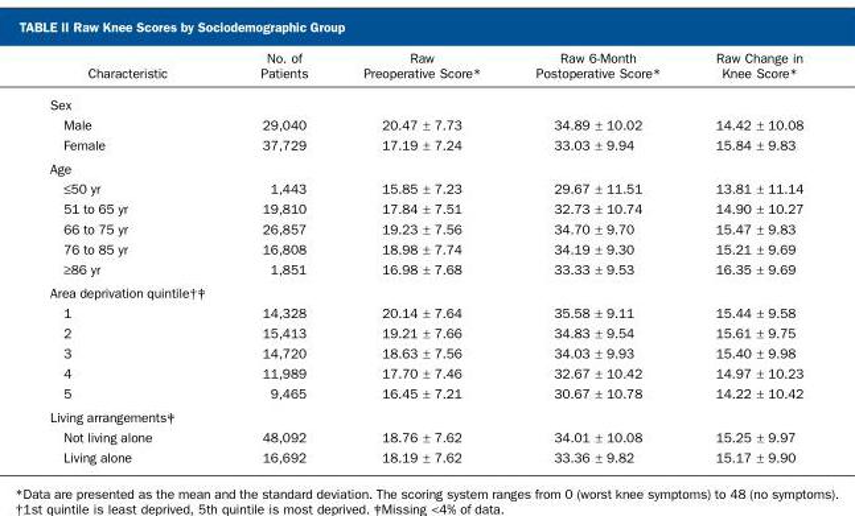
<table><thead><tr><td>Characteristic</td><td>No. of Patients</td><td>Raw Preoperative Score*</td><td>Raw 6-Month Postoperative Score*</td><td>Raw Change in Knee Score*</td></tr></thead><tbody><tr><td colspan="5">Sex</td></tr><tr><td>Male</td><td>29,040</td><td>20.47 ± 7.73</td><td>34.89 ± 10.02</td><td>14.42 ± 10.08</td></tr><tr><td>Female</td><td>37,729</td><td>17.19 ± 7.24</td><td>33.03 ± 9.94</td><td>15.84 ± 9.83</td></tr><tr><td colspan="5">Age</td></tr><tr><td>≤50 yr</td><td>1,443</td><td>15.85 ± 7.23</td><td>29.67 ± 11.51</td><td>13.81 ± 11.14</td></tr><tr><td>51 to 65 yr</td><td>19,810</td><td>17.84 ± 7.51</td><td>32.73 ± 10.74</td><td>14.90 ± 10.27</td></tr><tr><td>66 to 75 yr</td><td>26,857</td><td>19.23 ± 7.56</td><td>34.70 ± 9.70</td><td>15.47 ± 9.83</td></tr><tr><td>76 to 85 yr</td><td>16,808</td><td>18.98 ± 7.74</td><td>34.19 ± 9.30</td><td>15.21 ± 9.69</td></tr><tr><td>‡86 yr</td><td>1,851</td><td>16.98 ± 7.68</td><td>33.33 ± 9.53</td><td>16.35 ± 9.69</td></tr><tr><td colspan="5">Area deprivation quintile†‡</td></tr><tr><td>1</td><td>14,328</td><td>20.14 ± 7.64</td><td>35.58 ± 9.11</td><td>15.44 ± 9.58</td></tr><tr><td>2</td><td>15,413</td><td>19.21 ± 7.66</td><td>34.83 ± 9.54</td><td>15.61 ± 9.75</td></tr><tr><td>3</td><td>14,720</td><td>18.63 ± 7.56</td><td>34.03 ± 9.93</td><td>15.40 ± 9.98</td></tr><tr><td>4</td><td>11,989</td><td>17.70 ± 7.46</td><td>32.67 ± 10.42</td><td>14.97 ± 10.23</td></tr><tr><td>5</td><td>9,465</td><td>16.45 ± 7.21</td><td>30.67 ± 10.78</td><td>14.22 ± 10.42</td></tr><tr><td colspan="5">Living arrangements‡</td></tr><tr><td>Not living alone</td><td>48,092</td><td>18.76 ± 7.62</td><td>34.01 ± 10.08</td><td>15.25 ± 9.97</td></tr><tr><td>Living alone</td><td>16,692</td><td>18.19 ± 7.62</td><td>33.36 ± 9.82</td><td>15.17 ± 9.90</td></tr></tbody></table>